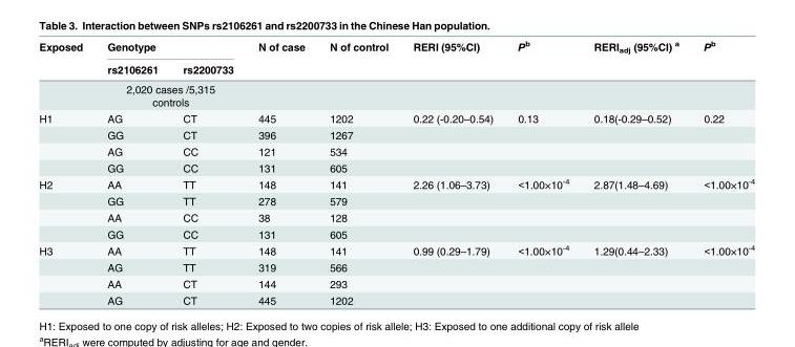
<table><thead><tr><td rowspan="2">Exposed</td><td colspan="2">Genotype</td><td rowspan="2">N of case</td><td rowspan="2">N of control</td><td rowspan="2">RERI (95%CI)</td><td rowspan="2">P<sup>b</sup></td><td rowspan="2">RERI<sub>adj</sub> (95%CI) <sup>a</sup></td><td rowspan="2">P<sup>b</sup></td></tr><tr><td>rs2106261</td><td>rs2200733</td></tr></thead><tbody><tr><td></td><td colspan="2">2,020 cases /5,315 controls</td><td></td><td></td><td></td><td></td><td></td><td></td></tr><tr><td rowspan="4">H1</td><td>AG</td><td>CT</td><td>445</td><td>1202</td><td>0.22 (-0.20–0.54)</td><td>0.13</td><td>0.18(-0.29–0.52)</td><td>0.22</td></tr><tr><td>GG</td><td>CT</td><td>396</td><td>1267</td><td></td><td></td><td></td><td></td></tr><tr><td>AG</td><td>CC</td><td>121</td><td>534</td><td></td><td></td><td></td><td></td></tr><tr><td>GG</td><td>CC</td><td>131</td><td>605</td><td></td><td></td><td></td><td></td></tr><tr><td rowspan="4">H2</td><td>AA</td><td>TT</td><td>148</td><td>141</td><td>2.26 (1.06–3.73)</td><td>&lt;1.00×10<sup>-4</sup></td><td>2.87(1.48–4.69)</td><td>&lt;1.00×10<sup>-4</sup></td></tr><tr><td>GG</td><td>TT</td><td>278</td><td>579</td><td></td><td></td><td></td><td></td></tr><tr><td>AA</td><td>CC</td><td>38</td><td>128</td><td></td><td></td><td></td><td></td></tr><tr><td>GG</td><td>CC</td><td>131</td><td>605</td><td></td><td></td><td></td><td></td></tr><tr><td rowspan="4">H3</td><td>AA</td><td>TT</td><td>148</td><td>141</td><td>0.99 (0.29–1.79)</td><td>&lt;1.00×10<sup>-4</sup></td><td>1.29(0.44–2.33)</td><td>&lt;1.00×10<sup>-4</sup></td></tr><tr><td>AG</td><td>TT</td><td>319</td><td>566</td><td></td><td></td><td></td><td></td></tr><tr><td>AA</td><td>CT</td><td>144</td><td>293</td><td></td><td></td><td></td><td></td></tr><tr><td>AG</td><td>CT</td><td>445</td><td>1202</td><td></td><td></td><td></td><td></td></tr></tbody></table>